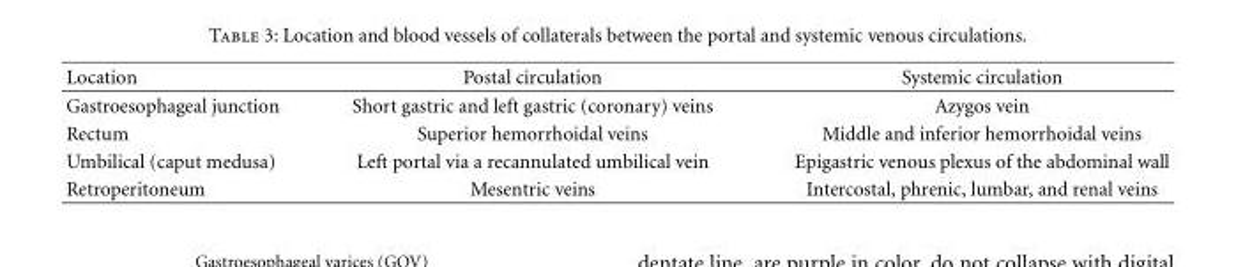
<table><thead><tr><td>Location</td><td>Postal circulation</td><td>Systemic circulation</td></tr></thead><tbody><tr><td>Gastroesophageal junction</td><td>Short gastric and left gastric (coronary) veins</td><td>Azygos vein</td></tr><tr><td>Rectum</td><td>Superior hemorrhoidal veins</td><td>Middle and inferior hemorrhoidal veins</td></tr><tr><td>Umbilical (caput medusa)</td><td>Left portal via a recannulated umbilical vein</td><td>Epigastric venous plexus of the abdominal wall</td></tr><tr><td>Retroperitoneum</td><td>Mesentric veins</td><td>Intercostal, phrenic, lumbar, and renal veins</td></tr></tbody></table>